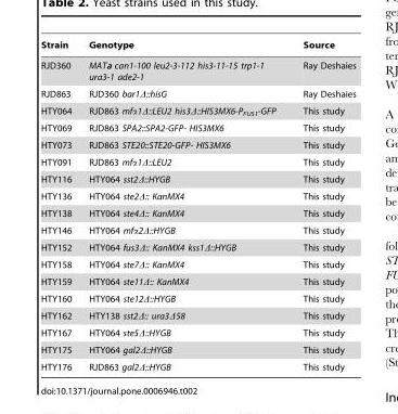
<table><thead><tr><td>Strain</td><td>Genotype</td><td>Source</td></tr></thead><tbody><tr><td>RJD360</td><td>MATa can1-100 leu2-3-112 his3-11-15 trp1-1 ura3-1 ade2-1</td><td>Ray Deshaies</td></tr><tr><td>RJD863</td><td>RJD360 bar1Δ::hisG</td><td>Ray Deshaies</td></tr><tr><td>HTY064</td><td>RJD863 mfα1Δ::LEU2 his3Δ::HIS3MX6-P<sub>FUS1</sub>-GFP</td><td>This study</td></tr><tr><td>HTY069</td><td>RJD863 SPA2::SPA2-GFP- HIS3MX6</td><td>This study</td></tr><tr><td>HTY073</td><td>RJD863 STE20::STE20-GFP- HIS3MX6</td><td>This study</td></tr><tr><td>HTY091</td><td>RJD863 mfα1Δ::LEU2</td><td>This study</td></tr><tr><td>HTY116</td><td>HTY064 sst2Δ::HYGB</td><td>This study</td></tr><tr><td>HTY136</td><td>HTY064 ste2Δ:: KanMX4</td><td>This study</td></tr><tr><td>HTY138</td><td>HTY064 ste4Δ:: KanMX4</td><td>This study</td></tr><tr><td>HTY146</td><td>HTY064 mfα2Δ::HYGB</td><td>This study</td></tr><tr><td>HTY152</td><td>HTY064 fus3Δ:: KanMX4 kss1Δ::HYGB</td><td>This study</td></tr><tr><td>HTY158</td><td>HTY064 ste7Δ:: KanMX4</td><td>This study</td></tr><tr><td>HTY159</td><td>HTY064 ste11Δ:: KanMX4</td><td>This study</td></tr><tr><td>HTY160</td><td>HTY064 ste12Δ::HYGB</td><td>This study</td></tr><tr><td>HTY162</td><td>HTY138 sst2Δ:: ura3Δ58</td><td>This study</td></tr><tr><td>HTY167</td><td>HTY064 ste5Δ::HYGB</td><td>This study</td></tr><tr><td>HTY175</td><td>HTY064 gal2Δ::HYGB</td><td>This study</td></tr><tr><td>HTY176</td><td>RJD863 gal2Δ::HYGB</td><td>This study</td></tr></tbody></table>